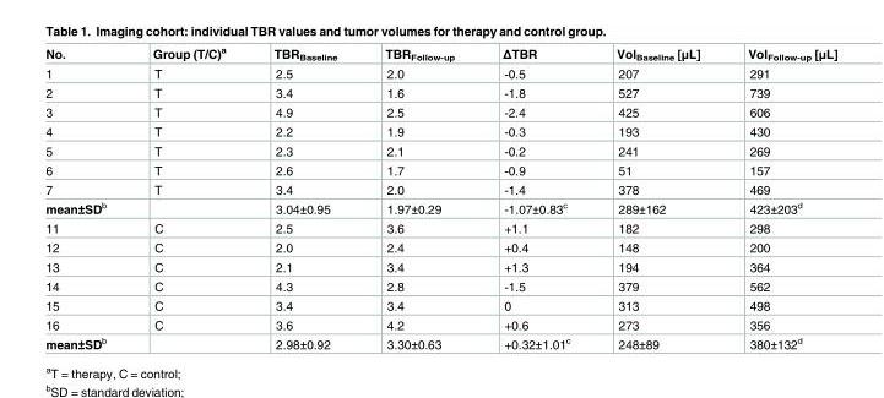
<table><thead><tr><td>No.</td><td>Group (T/C)<sup>a</sup></td><td>TBR<sub>Baseline</sub></td><td>TBR<sub>Follow-up</sub></td><td>ΔTBR</td><td>Vol<sub>Baseline</sub> [μL]</td><td>Vol<sub>Follow-up</sub> [μL]</td></tr></thead><tbody><tr><td>1</td><td>T</td><td>2.5</td><td>2.0</td><td>-0.5</td><td>207</td><td>291</td></tr><tr><td>2</td><td>T</td><td>3.4</td><td>1.6</td><td>-1.8</td><td>527</td><td>739</td></tr><tr><td>3</td><td>T</td><td>4.9</td><td>2.5</td><td>-2.4</td><td>425</td><td>606</td></tr><tr><td>4</td><td>T</td><td>2.2</td><td>1.9</td><td>-0.3</td><td>193</td><td>430</td></tr><tr><td>5</td><td>T</td><td>2.3</td><td>2.1</td><td>-0.2</td><td>241</td><td>269</td></tr><tr><td>6</td><td>T</td><td>2.6</td><td>1.7</td><td>-0.9</td><td>51</td><td>157</td></tr><tr><td>7</td><td>T</td><td>3.4</td><td>2.0</td><td>-1.4</td><td>378</td><td>469</td></tr><tr><td>mean±SD<sup>b</sup></td><td></td><td>3.04±0.95</td><td>1.97±0.29</td><td>-1.07±0.83<sup>c</sup></td><td>289±162</td><td>423±203<sup>d</sup></td></tr><tr><td>11</td><td>C</td><td>2.5</td><td>3.6</td><td>+1.1</td><td>182</td><td>298</td></tr><tr><td>12</td><td>C</td><td>2.0</td><td>2.4</td><td>+0.4</td><td>148</td><td>200</td></tr><tr><td>13</td><td>C</td><td>2.1</td><td>3.4</td><td>+1.3</td><td>194</td><td>364</td></tr><tr><td>14</td><td>C</td><td>4.3</td><td>2.8</td><td>-1.5</td><td>379</td><td>562</td></tr><tr><td>15</td><td>C</td><td>3.4</td><td>3.4</td><td>0</td><td>313</td><td>498</td></tr><tr><td>16</td><td>C</td><td>3.6</td><td>4.2</td><td>+0.6</td><td>273</td><td>356</td></tr><tr><td>mean±SD<sup>b</sup></td><td></td><td>2.98±0.92</td><td>3.30±0.63</td><td>+0.32±1.01<sup>c</sup></td><td>248±89</td><td>380±132<sup>d</sup></td></tr></tbody></table>